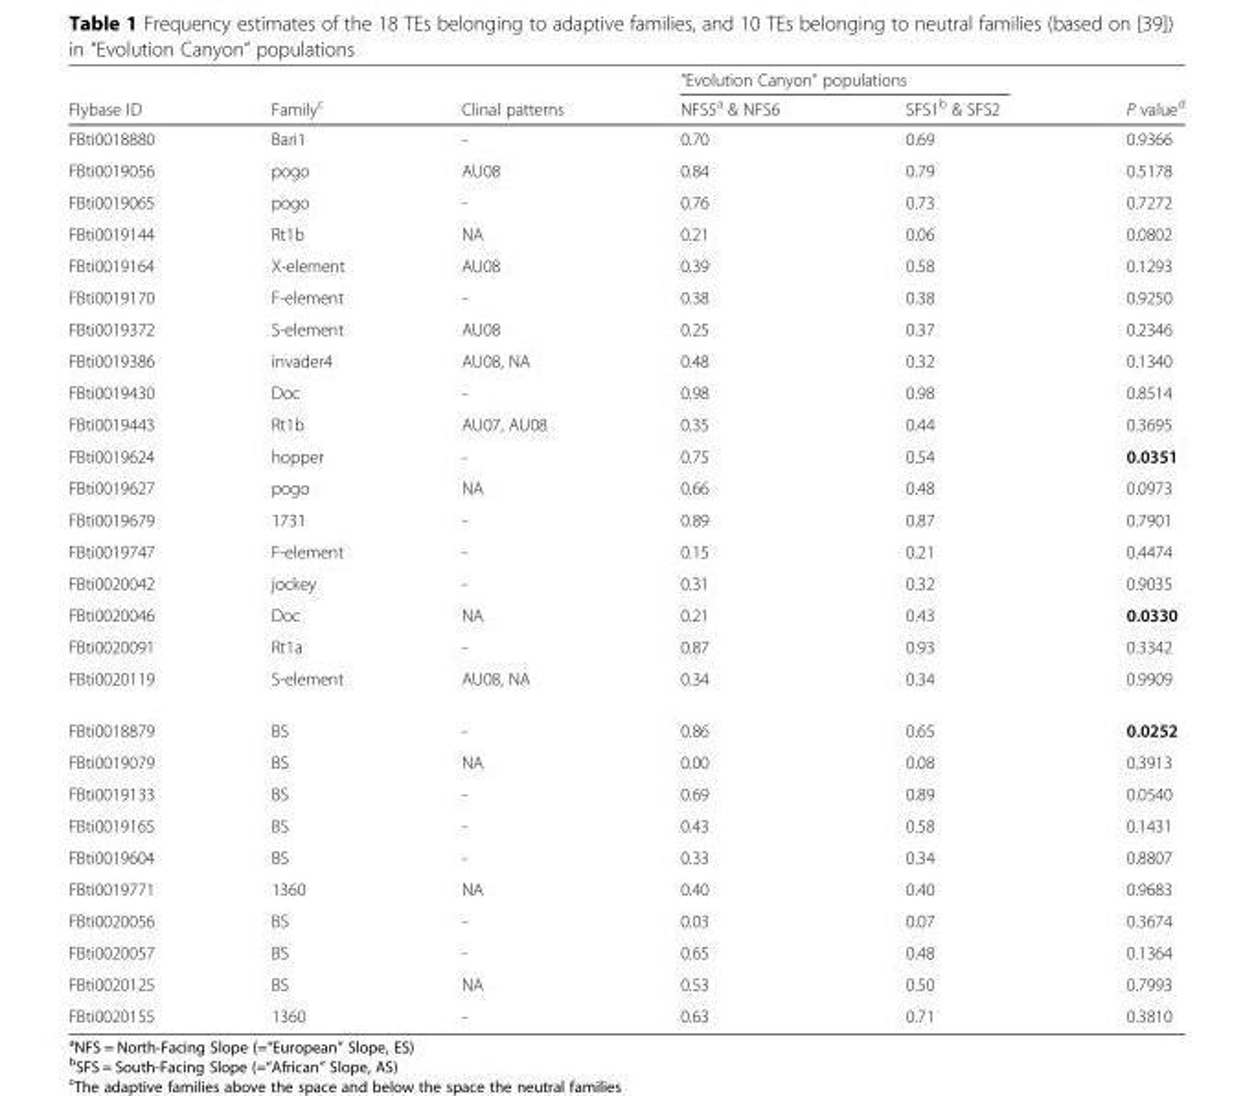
<table><thead><tr><td rowspan="2">Flybase ID</td><td rowspan="2">Family<sup>c</sup></td><td rowspan="2">Clinal patterns</td><td colspan="2">“Evolution Canyon” populations</td><td rowspan="2">P value<sup>d</sup></td></tr><tr><td>NFS5<sup>a</sup> &amp; NFS6</td><td>SFS1<sup>b</sup> &amp; SFS2</td></tr></thead><tbody><tr><td>FBti0018880</td><td>Bari1</td><td>-</td><td>0.70</td><td>0.69</td><td>0.9366</td></tr><tr><td>FBti0019056</td><td>pogo</td><td>AU08</td><td>0.84</td><td>0.79</td><td>0.5178</td></tr><tr><td>FBti0019065</td><td>pogo</td><td>-</td><td>0.76</td><td>0.73</td><td>0.7272</td></tr><tr><td>FBti0019144</td><td>Rt1b</td><td>NA</td><td>0.21</td><td>0.06</td><td>0.0802</td></tr><tr><td>FBti0019164</td><td>X-element</td><td>AU08</td><td>0.39</td><td>0.58</td><td>0.1293</td></tr><tr><td>FBti0019170</td><td>F-element</td><td>-</td><td>0.38</td><td>0.38</td><td>0.9250</td></tr><tr><td>FBti0019372</td><td>S-element</td><td>AU08</td><td>0.25</td><td>0.37</td><td>0.2346</td></tr><tr><td>FBti0019386</td><td>invader4</td><td>AU08, NA</td><td>0.48</td><td>0.32</td><td>0.1340</td></tr><tr><td>FBti0019430</td><td>Doc</td><td>-</td><td>0.98</td><td>0.98</td><td>0.8514</td></tr><tr><td>FBti0019443</td><td>Rt1b</td><td>AU07, AU08</td><td>0.35</td><td>0.44</td><td>0.3695</td></tr><tr><td>FBti0019624</td><td>hopper</td><td>-</td><td>0.75</td><td>0.54</td><td>0.0351</td></tr><tr><td>FBti0019627</td><td>pogo</td><td>NA</td><td>0.66</td><td>0.48</td><td>0.0973</td></tr><tr><td>FBti0019679</td><td>1731</td><td>-</td><td>0.89</td><td>0.87</td><td>0.7901</td></tr><tr><td>FBti0019747</td><td>F-element</td><td>-</td><td>0.15</td><td>0.21</td><td>0.4474</td></tr><tr><td>FBti0020042</td><td>jockey</td><td>-</td><td>0.31</td><td>0.32</td><td>0.9035</td></tr><tr><td>FBti0020046</td><td>Doc</td><td>NA</td><td>0.21</td><td>0.43</td><td>0.0330</td></tr><tr><td>FBti0020091</td><td>Rt1a</td><td>-</td><td>0.87</td><td>0.93</td><td>0.3342</td></tr><tr><td>FBti0020119</td><td>S-element</td><td>AU08, NA</td><td>0.34</td><td>0.34</td><td>0.9909</td></tr><tr><td>FBti0018879</td><td>BS</td><td>-</td><td>0.86</td><td>0.65</td><td>0.0252</td></tr><tr><td>FBti0019079</td><td>BS</td><td>NA</td><td>0.00</td><td>0.08</td><td>0.3913</td></tr><tr><td>FBti0019133</td><td>BS</td><td>-</td><td>0.69</td><td>0.89</td><td>0.0540</td></tr><tr><td>FBti0019165</td><td>BS</td><td>-</td><td>0.43</td><td>0.58</td><td>0.1431</td></tr><tr><td>FBti0019604</td><td>BS</td><td>-</td><td>0.33</td><td>0.34</td><td>0.8807</td></tr><tr><td>FBti0019771</td><td>1360</td><td>NA</td><td>0.40</td><td>0.40</td><td>0.9683</td></tr><tr><td>FBti0020056</td><td>BS</td><td>-</td><td>0.03</td><td>0.07</td><td>0.3674</td></tr><tr><td>FBti0020057</td><td>BS</td><td>-</td><td>0.65</td><td>0.48</td><td>0.1364</td></tr><tr><td>FBti0020125</td><td>BS</td><td>NA</td><td>0.53</td><td>0.50</td><td>0.7993</td></tr><tr><td>FBti0020155</td><td>1360</td><td>-</td><td>0.63</td><td>0.71</td><td>0.3810</td></tr></tbody></table>